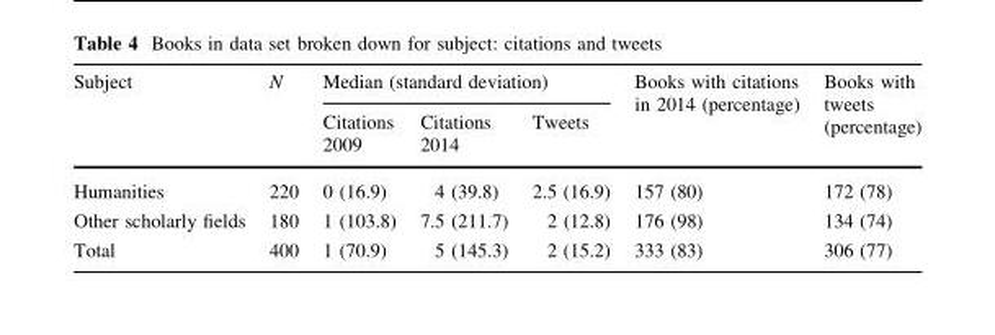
<table><thead><tr><td rowspan="2">Subject</td><td rowspan="2">N</td><td colspan="3">Median (standard deviation)</td><td rowspan="2">Books with citations in 2014 (percentage)</td><td rowspan="2">Books with tweets (percentage)</td></tr><tr><td>Citations 2009</td><td>Citations 2014</td><td>Tweets</td></tr></thead><tbody><tr><td>Humanities</td><td>220</td><td>0 (16.9)</td><td>4 (39.8)</td><td>2.5 (16.9)</td><td>157 (80)</td><td>172 (78)</td></tr><tr><td>Other scholarly fields</td><td>180</td><td>1 (103.8)</td><td>7.5 (211.7)</td><td>2 (12.8)</td><td>176 (98)</td><td>134 (74)</td></tr><tr><td>Total</td><td>400</td><td>1 (70.9)</td><td>5 (145.3)</td><td>2 (15.2)</td><td>333 (83)</td><td>306 (77)</td></tr></tbody></table>